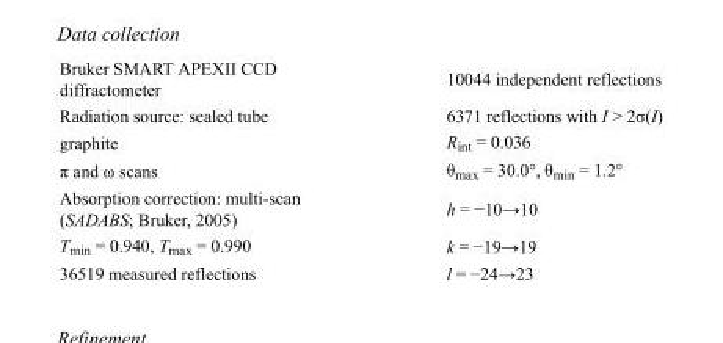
<table><tbody><tr><td>Bruker SMART APEXII CCD diffractometer</td><td>10044 independent reflections</td></tr><tr><td>Radiation source: sealed tube</td><td>6371 reflections with I &gt; 2σ(I)</td></tr><tr><td>graphite</td><td>R<sub>int</sub> = 0.036</td></tr><tr><td>π and ω scans</td><td>θ<sub>max</sub> = 30.0°, θ<sub>min</sub> = 1.2°</td></tr><tr><td>Absorption correction: multi-scan (SADABS; Bruker, 2005)</td><td>h = −10→10</td></tr><tr><td>T<sub>min</sub> = 0.940, T<sub>max</sub> = 0.990</td><td>k = −19→19</td></tr><tr><td>36519 measured reflections</td><td>l = −24→23</td></tr></tbody></table>